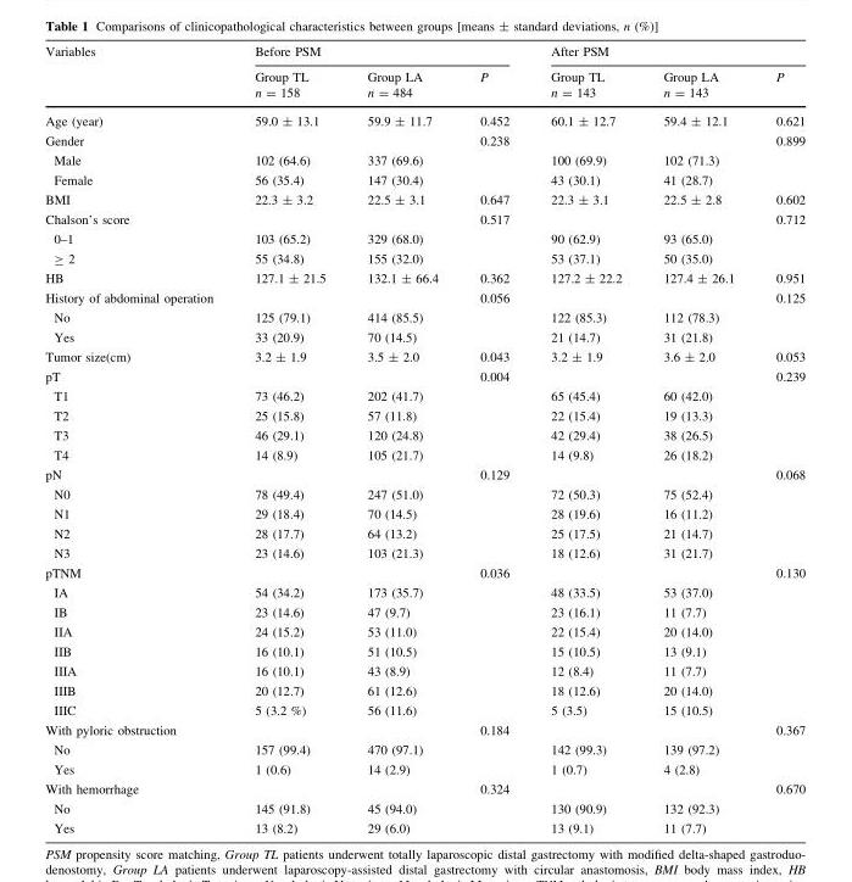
<table><thead><tr><td rowspan="2">Variables</td><td colspan="3">Before PSM</td><td colspan="3">After PSM</td></tr><tr><td>Group TL n = 158</td><td>Group LA n = 484</td><td>P</td><td>Group TL n = 143</td><td>Group LA n = 143</td><td>P</td></tr></thead><tbody><tr><td>Age (year)</td><td>59.0 ± 13.1</td><td>59.9 ± 11.7</td><td>0.452</td><td>60.1 ± 12.7</td><td>59.4 ± 12.1</td><td>0.621</td></tr><tr><td>Gender</td><td></td><td></td><td>0.238</td><td></td><td></td><td>0.899</td></tr><tr><td>Male</td><td>102 (64.6)</td><td>337 (69.6)</td><td></td><td>100 (69.9)</td><td>102 (71.3)</td><td></td></tr><tr><td>Female</td><td>56 (35.4)</td><td>147 (30.4)</td><td></td><td>43 (30.1)</td><td>41 (28.7)</td><td></td></tr><tr><td>BMI</td><td>22.3 ± 3.2</td><td>22.5 ± 3.1</td><td>0.647</td><td>22.3 ± 3.1</td><td>22.5 ± 2.8</td><td>0.602</td></tr><tr><td>Chalson’s score</td><td></td><td></td><td>0.517</td><td></td><td></td><td>0.712</td></tr><tr><td>0–1</td><td>103 (65.2)</td><td>329 (68.0)</td><td></td><td>90 (62.9)</td><td>93 (65.0)</td><td></td></tr><tr><td>≥ 2</td><td>55 (34.8)</td><td>155 (32.0)</td><td></td><td>53 (37.1)</td><td>50 (35.0)</td><td></td></tr><tr><td>HB</td><td>127.1 ± 21.5</td><td>132.1 ± 66.4</td><td>0.362</td><td>127.2 ± 22.2</td><td>127.4 ± 26.1</td><td>0.951</td></tr><tr><td>History of abdominal operation</td><td></td><td></td><td>0.056</td><td></td><td></td><td>0.125</td></tr><tr><td>No</td><td>125 (79.1)</td><td>414 (85.5)</td><td></td><td>122 (85.3)</td><td>112 (78.3)</td><td></td></tr><tr><td>Yes</td><td>33 (20.9)</td><td>70 (14.5)</td><td></td><td>21 (14.7)</td><td>31 (21.8)</td><td></td></tr><tr><td>Tumor size(cm)</td><td>3.2 ± 1.9</td><td>3.5 ± 2.0</td><td>0.043</td><td>3.2 ± 1.9</td><td>3.6 ± 2.0</td><td>0.053</td></tr><tr><td>pT</td><td></td><td></td><td>0.004</td><td></td><td></td><td>0.239</td></tr><tr><td>T1</td><td>73 (46.2)</td><td>202 (41.7)</td><td></td><td>65 (45.4)</td><td>60 (42.0)</td><td></td></tr><tr><td>T2</td><td>25 (15.8)</td><td>57 (11.8)</td><td></td><td>22 (15.4)</td><td>19 (13.3)</td><td></td></tr><tr><td>T3</td><td>46 (29.1)</td><td>120 (24.8)</td><td></td><td>42 (29.4)</td><td>38 (26.5)</td><td></td></tr><tr><td>T4</td><td>14 (8.9)</td><td>105 (21.7)</td><td></td><td>14 (9.8)</td><td>26 (18.2)</td><td></td></tr><tr><td>pN</td><td></td><td></td><td>0.129</td><td></td><td></td><td>0.068</td></tr><tr><td>N0</td><td>78 (49.4)</td><td>247 (51.0)</td><td></td><td>72 (50.3)</td><td>75 (52.4)</td><td></td></tr><tr><td>N1</td><td>29 (18.4)</td><td>70 (14.5)</td><td></td><td>28 (19.6)</td><td>16 (11.2)</td><td></td></tr><tr><td>N2</td><td>28 (17.7)</td><td>64 (13.2)</td><td></td><td>25 (17.5)</td><td>21 (14.7)</td><td></td></tr><tr><td>N3</td><td>23 (14.6)</td><td>103 (21.3)</td><td></td><td>18 (12.6)</td><td>31 (21.7)</td><td></td></tr><tr><td>pTNM</td><td></td><td></td><td>0.036</td><td></td><td></td><td>0.130</td></tr><tr><td>IA</td><td>54 (34.2)</td><td>173 (35.7)</td><td></td><td>48 (33.5)</td><td>53 (37.0)</td><td></td></tr><tr><td>IB</td><td>23 (14.6)</td><td>47 (9.7)</td><td></td><td>23 (16.1)</td><td>11 (7.7)</td><td></td></tr><tr><td>IIA</td><td>24 (15.2)</td><td>53 (11.0)</td><td></td><td>22 (15.4)</td><td>20 (14.0)</td><td></td></tr><tr><td>IIB</td><td>16 (10.1)</td><td>51 (10.5)</td><td></td><td>15 (10.5)</td><td>13 (9.1)</td><td></td></tr><tr><td>IIIA</td><td>16 (10.1)</td><td>43 (8.9)</td><td></td><td>12 (8.4)</td><td>11 (7.7)</td><td></td></tr><tr><td>IIIB</td><td>20 (12.7)</td><td>61 (12.6)</td><td></td><td>18 (12.6)</td><td>20 (14.0)</td><td></td></tr><tr><td>IIIC</td><td>5 (3.2 %)</td><td>56 (11.6)</td><td></td><td>5 (3.5)</td><td>15 (10.5)</td><td></td></tr><tr><td>With pyloric obstruction</td><td></td><td></td><td>0.184</td><td></td><td></td><td>0.367</td></tr><tr><td>No</td><td>157 (99.4)</td><td>470 (97.1)</td><td></td><td>142 (99.3)</td><td>139 (97.2)</td><td></td></tr><tr><td>Yes</td><td>1 (0.6)</td><td>14 (2.9)</td><td></td><td>1 (0.7)</td><td>4 (2.8)</td><td></td></tr><tr><td>With hemorrhage</td><td></td><td></td><td>0.324</td><td></td><td></td><td>0.670</td></tr><tr><td>No</td><td>145 (91.8)</td><td>45 (94.0)</td><td></td><td>130 (90.9)</td><td>132 (92.3)</td><td></td></tr><tr><td>Yes</td><td>13 (8.2)</td><td>29 (6.0)</td><td></td><td>13 (9.1)</td><td>11 (7.7)</td><td></td></tr></tbody></table>